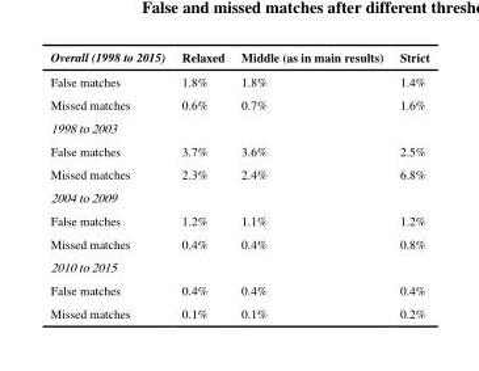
<table><thead><tr><td>Overall (1998 to 2015)</td><td>Relaxed</td><td>Middle (as in main results)</td><td>Strict</td></tr></thead><tbody><tr><td>False matches</td><td>1.8%</td><td>1.8%</td><td>1.4%</td></tr><tr><td>Missed matches</td><td>0.6%</td><td>0.7%</td><td>1.6%</td></tr><tr><td colspan="4">1998 to 2003</td></tr><tr><td>False matches</td><td>3.7%</td><td>3.6%</td><td>2.5%</td></tr><tr><td>Missed matches</td><td>2.3%</td><td>2.4%</td><td>6.8%</td></tr><tr><td colspan="4">2004 to 2009</td></tr><tr><td>False matches</td><td>1.2%</td><td>1.1%</td><td>1.2%</td></tr><tr><td>Missed matches</td><td>0.4%</td><td>0.4%</td><td>0.8%</td></tr><tr><td colspan="4">2010 to 2015</td></tr><tr><td>False matches</td><td>0.4%</td><td>0.4%</td><td>0.4%</td></tr><tr><td>Missed matches</td><td>0.1%</td><td>0.1%</td><td>0.2%</td></tr></tbody></table>